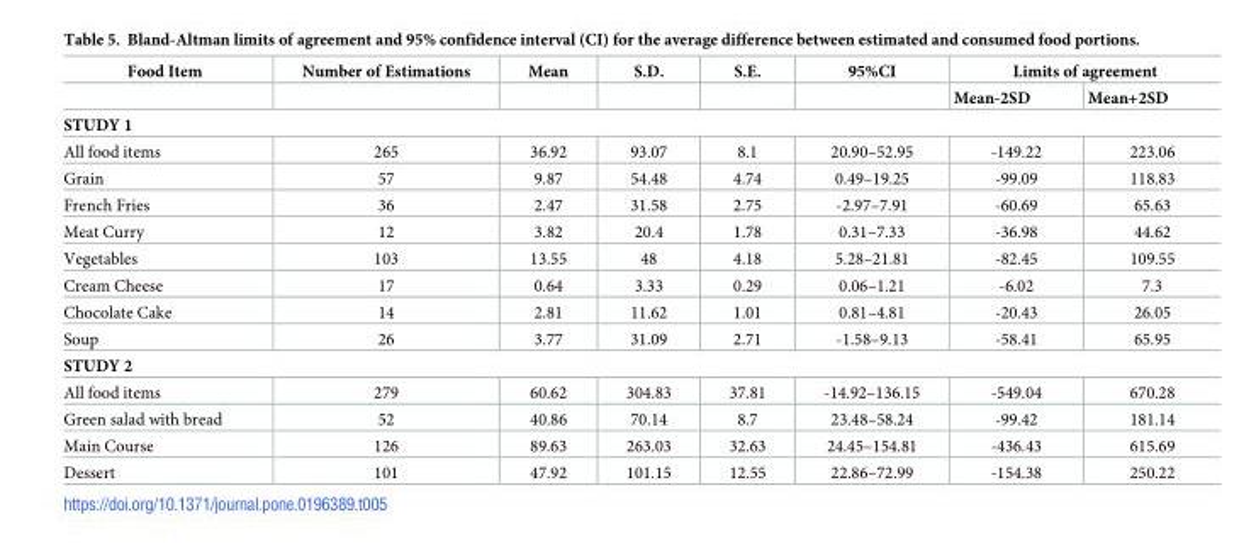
<table><thead><tr><td rowspan="2">Food Item</td><td rowspan="2">Number of Estimations</td><td rowspan="2">Mean</td><td rowspan="2">S.D.</td><td rowspan="2">S.E.</td><td rowspan="2">95%CI</td><td colspan="2">Limits of agreement</td></tr><tr><td>Mean-2SD</td><td>Mean+2SD</td></tr></thead><tbody><tr><td colspan="8">STUDY 1</td></tr><tr><td>All food items</td><td>265</td><td>36.92</td><td>93.07</td><td>8.1</td><td>20.90–52.95</td><td>-149.22</td><td>223.06</td></tr><tr><td>Grain</td><td>57</td><td>9.87</td><td>54.48</td><td>4.74</td><td>0.49–19.25</td><td>-99.09</td><td>118.83</td></tr><tr><td>French Fries</td><td>36</td><td>2.47</td><td>31.58</td><td>2.75</td><td>-2.97–7.91</td><td>-60.69</td><td>65.63</td></tr><tr><td>Meat Curry</td><td>12</td><td>3.82</td><td>20.4</td><td>1.78</td><td>0.31–7.33</td><td>-36.98</td><td>44.62</td></tr><tr><td>Vegetables</td><td>103</td><td>13.55</td><td>48</td><td>4.18</td><td>5.28–21.81</td><td>-82.45</td><td>109.55</td></tr><tr><td>Cream Cheese</td><td>17</td><td>0.64</td><td>3.33</td><td>0.29</td><td>0.06–1.21</td><td>-6.02</td><td>7.3</td></tr><tr><td>Chocolate Cake</td><td>14</td><td>2.81</td><td>11.62</td><td>1.01</td><td>0.81–4.81</td><td>-20.43</td><td>26.05</td></tr><tr><td>Soup</td><td>26</td><td>3.77</td><td>31.09</td><td>2.71</td><td>-1.58–9.13</td><td>-58.41</td><td>65.95</td></tr><tr><td colspan="8">STUDY 2</td></tr><tr><td>All food items</td><td>279</td><td>60.62</td><td>304.83</td><td>37.81</td><td>-14.92–136.15</td><td>-549.04</td><td>670.28</td></tr><tr><td>Green salad with bread</td><td>52</td><td>40.86</td><td>70.14</td><td>8.7</td><td>23.48–58.24</td><td>-99.42</td><td>181.14</td></tr><tr><td>Main Course</td><td>126</td><td>89.63</td><td>263.03</td><td>32.63</td><td>24.45–154.81</td><td>-436.43</td><td>615.69</td></tr><tr><td>Dessert</td><td>101</td><td>47.92</td><td>101.15</td><td>12.55</td><td>22.86–72.99</td><td>-154.38</td><td>250.22</td></tr></tbody></table>